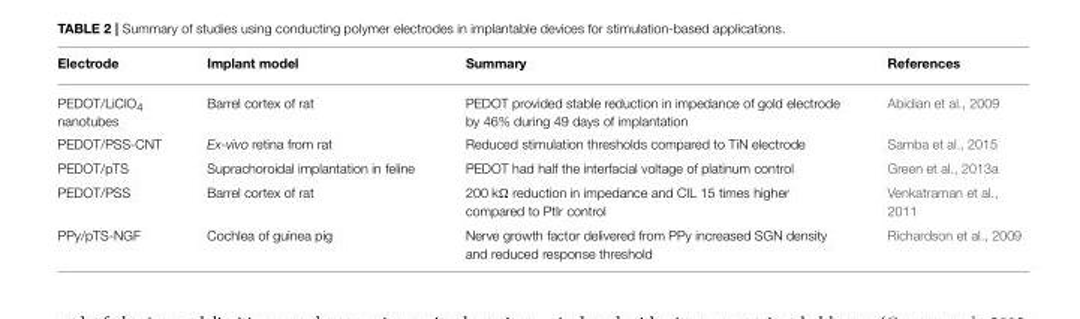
<table><thead><tr><td>Electrode</td><td>Implant model</td><td>Summary</td><td>References</td></tr></thead><tbody><tr><td>PEDOT/LiClO<sub>4</sub> nanotubes</td><td>Barrel cortex of rat</td><td>PEDOT provided stable reduction in impedance of gold electrode by 46% during 49 days of implantation</td><td>Abidian et al., 2009</td></tr><tr><td>PEDOT/PSS-CNT</td><td>Ex-vivo retina from rat</td><td>Reduced stimulation thresholds compared to TiN electrode</td><td>Samba et al., 2015</td></tr><tr><td>PEDOT/pTS</td><td>Suprachoroidal implantation in feline</td><td>PEDOT had half the interfacial voltage of platinum control</td><td>Green et al., 2013a</td></tr><tr><td>PEDOT/PSS</td><td>Barrel cortex of rat</td><td>200 kΩ reduction in impedance and CIL 15 times higher compared to PtIr control</td><td>Venkatraman et al., 2011</td></tr><tr><td>PPy/pTS-NGF</td><td>Cochlea of guinea pig</td><td>Nerve growth factor delivered from PPy increased SGN density and reduced response threshold</td><td>Richardson et al., 2009</td></tr></tbody></table>